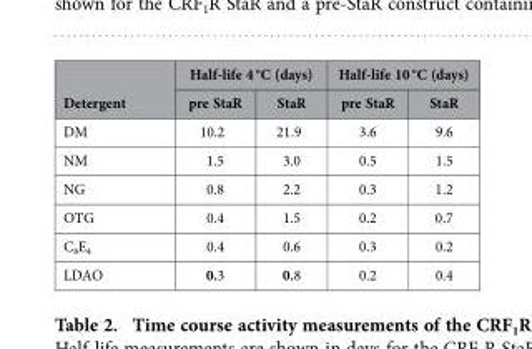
<table><thead><tr><td rowspan="2">Detergent</td><td colspan="2">Half-life 4 °C (days)</td><td colspan="2">Half-life 10 °C (days)</td></tr><tr><td>pre StaR</td><td>StaR</td><td>pre StaR</td><td>StaR</td></tr></thead><tbody><tr><td>DM</td><td>10.2</td><td>21.9</td><td>3.6</td><td>9.6</td></tr><tr><td>NM</td><td>1.5</td><td>3.0</td><td>0.5</td><td>1.5</td></tr><tr><td>NG</td><td>0.8</td><td>2.2</td><td>0.3</td><td>1.2</td></tr><tr><td>OTG</td><td>0.4</td><td>1.5</td><td>0.2</td><td>0.7</td></tr><tr><td>C<sub>8</sub>E<sub>4</sub></td><td>0.4</td><td>0.6</td><td>0.3</td><td>0.2</td></tr><tr><td>LDAO</td><td>0.3</td><td>0.8</td><td>0.2</td><td>0.4</td></tr></tbody></table>